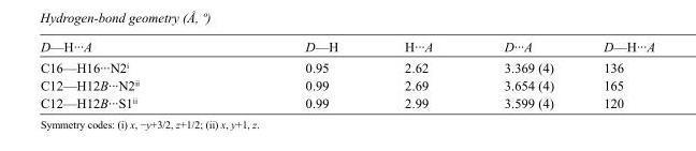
<table><tbody><tr><td>D—H···A</td><td>D—H</td><td>H···A</td><td>D···A</td><td>D—H···A</td></tr><tr><td>C16—H16···N2<sup>i</sup></td><td>0.95</td><td>2.62</td><td>3.369 (4)</td><td>136</td></tr><tr><td>C12—H12B···N2<sup>ii</sup></td><td>0.99</td><td>2.69</td><td>3.654 (4)</td><td>165</td></tr><tr><td>C12—H12B···S1<sup>ii</sup></td><td>0.99</td><td>2.99</td><td>3.599 (4)</td><td>120</td></tr></tbody></table>